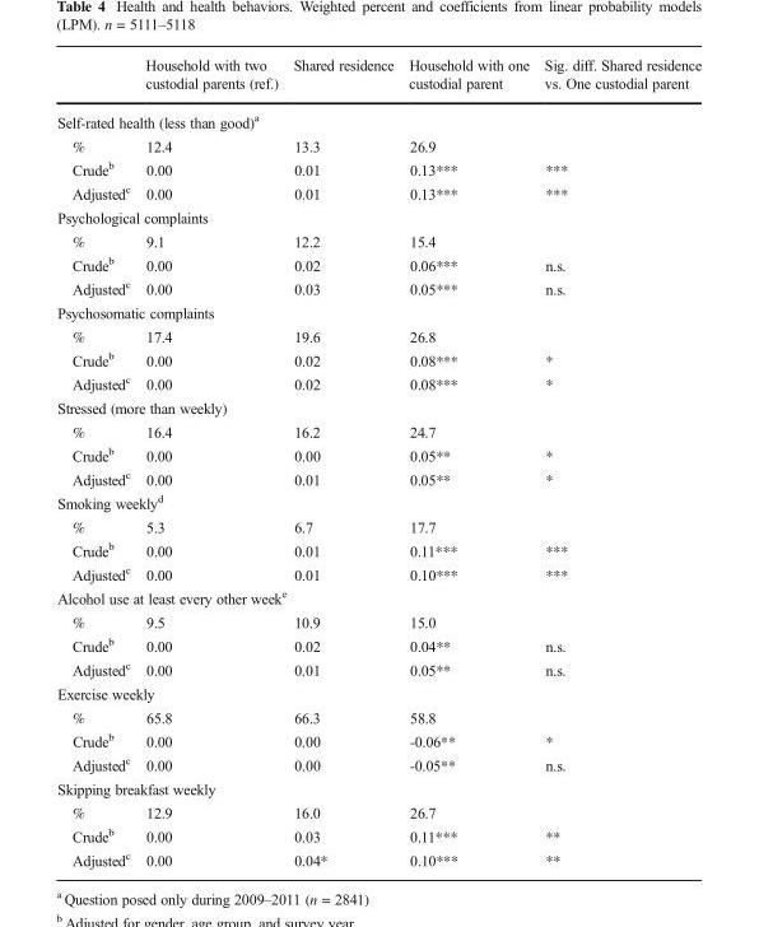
<table><thead><tr><td></td><td>Household with two custodial parents (ref.)</td><td>Shared residence</td><td>Household with one custodial parent</td><td>Sig. diff. Shared residence vs. One custodial parent</td></tr></thead><tbody><tr><td colspan="5">Self-rated health (less than good)<sup>a</sup></td></tr><tr><td>%</td><td>12.4</td><td>13.3</td><td>26.9</td><td></td></tr><tr><td>Crude<sup>b</sup></td><td>0.00</td><td>0.01</td><td>0.13***</td><td>***</td></tr><tr><td>Adjusted<sup>c</sup></td><td>0.00</td><td>0.01</td><td>0.13***</td><td>***</td></tr><tr><td colspan="5">Psychological complaints</td></tr><tr><td>%</td><td>9.1</td><td>12.2</td><td>15.4</td><td></td></tr><tr><td>Crude<sup>b</sup></td><td>0.00</td><td>0.02</td><td>0.06***</td><td>n.s.</td></tr><tr><td>Adjusted<sup>c</sup></td><td>0.00</td><td>0.03</td><td>0.05***</td><td>n.s.</td></tr><tr><td colspan="5">Psychosomatic complaints</td></tr><tr><td>%</td><td>17.4</td><td>19.6</td><td>26.8</td><td></td></tr><tr><td>Crude<sup>b</sup></td><td>0.00</td><td>0.02</td><td>0.08***</td><td>*</td></tr><tr><td>Adjusted<sup>c</sup></td><td>0.00</td><td>0.02</td><td>0.08***</td><td>*</td></tr><tr><td colspan="5">Stressed (more than weekly)</td></tr><tr><td>%</td><td>16.4</td><td>16.2</td><td>24.7</td><td></td></tr><tr><td>Crude<sup>b</sup></td><td>0.00</td><td>0.00</td><td>0.05**</td><td>*</td></tr><tr><td>Adjusted<sup>c</sup></td><td>0.00</td><td>0.01</td><td>0.05**</td><td>*</td></tr><tr><td colspan="5">Smoking weekly<sup>d</sup></td></tr><tr><td>%</td><td>5.3</td><td>6.7</td><td>17.7</td><td></td></tr><tr><td>Crude<sup>b</sup></td><td>0.00</td><td>0.01</td><td>0.11***</td><td>***</td></tr><tr><td>Adjusted<sup>c</sup></td><td>0.00</td><td>0.01</td><td>0.10***</td><td>***</td></tr><tr><td colspan="5">Alcohol use at least every other week<sup>e</sup></td></tr><tr><td>%</td><td>9.5</td><td>10.9</td><td>15.0</td><td></td></tr><tr><td>Crude<sup>b</sup></td><td>0.00</td><td>0.02</td><td>0.04**</td><td>n.s.</td></tr><tr><td>Adjusted<sup>c</sup></td><td>0.00</td><td>0.01</td><td>0.05**</td><td>n.s.</td></tr><tr><td colspan="5">Exercise weekly</td></tr><tr><td>%</td><td>65.8</td><td>66.3</td><td>58.8</td><td></td></tr><tr><td>Crude<sup>b</sup></td><td>0.00</td><td>0.00</td><td>-0.06**</td><td>*</td></tr><tr><td>Adjusted<sup>c</sup></td><td>0.00</td><td>0.00</td><td>-0.05**</td><td>n.s.</td></tr><tr><td colspan="5">Skipping breakfast weekly</td></tr><tr><td>%</td><td>12.9</td><td>16.0</td><td>26.7</td><td></td></tr><tr><td>Crude<sup>b</sup></td><td>0.00</td><td>0.03</td><td>0.11***</td><td>**</td></tr><tr><td>Adjusted<sup>c</sup></td><td>0.00</td><td>0.04*</td><td>0.10***</td><td>**</td></tr></tbody></table>